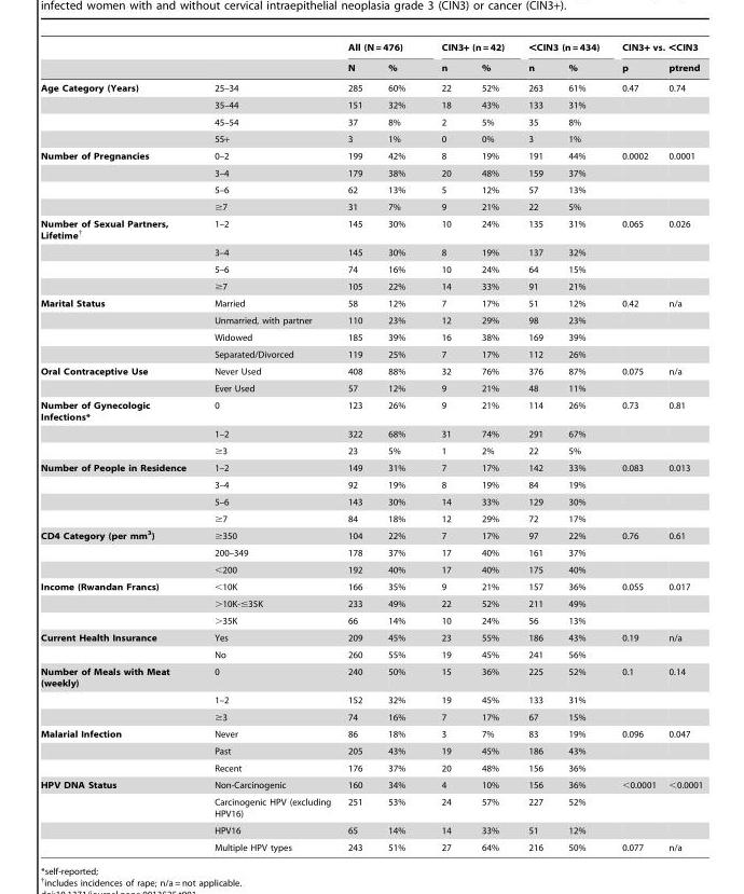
<table><thead><tr><td rowspan="2"></td><td rowspan="2"></td><td colspan="2">All (N = 476)</td><td colspan="2">CIN3+ (n = 42)</td><td colspan="2">&lt;CIN3 (n = 434)</td><td colspan="2">CIN3+ vs. &lt;CIN3</td></tr><tr><td>N</td><td>%</td><td>n</td><td>%</td><td>n</td><td>%</td><td>p</td><td>ptrend</td></tr></thead><tbody><tr><td rowspan="4">Age Category (Years)</td><td>25–34</td><td>285</td><td>60%</td><td>22</td><td>52%</td><td>263</td><td>61%</td><td>0.47</td><td>0.74</td></tr><tr><td>35–44</td><td>151</td><td>32%</td><td>18</td><td>43%</td><td>133</td><td>31%</td><td></td><td></td></tr><tr><td>45–54</td><td>37</td><td>8%</td><td>2</td><td>5%</td><td>35</td><td>8%</td><td></td><td></td></tr><tr><td>55+</td><td>3</td><td>1%</td><td>0</td><td>0%</td><td>3</td><td>1%</td><td></td><td></td></tr><tr><td rowspan="4">Number of Pregnancies</td><td>0–2</td><td>199</td><td>42%</td><td>8</td><td>19%</td><td>191</td><td>44%</td><td>0.0002</td><td>0.0001</td></tr><tr><td>3–4</td><td>179</td><td>38%</td><td>20</td><td>48%</td><td>159</td><td>37%</td><td></td><td></td></tr><tr><td>5–6</td><td>62</td><td>13%</td><td>5</td><td>12%</td><td>57</td><td>13%</td><td></td><td></td></tr><tr><td>≥7</td><td>31</td><td>7%</td><td>9</td><td>21%</td><td>22</td><td>5%</td><td></td><td></td></tr><tr><td rowspan="4">Number of Sexual Partners, Lifetime†</td><td>1–2</td><td>145</td><td>30%</td><td>10</td><td>24%</td><td>135</td><td>31%</td><td>0.065</td><td>0.026</td></tr><tr><td>3–4</td><td>145</td><td>30%</td><td>8</td><td>19%</td><td>137</td><td>32%</td><td></td><td></td></tr><tr><td>5–6</td><td>74</td><td>16%</td><td>10</td><td>24%</td><td>64</td><td>15%</td><td></td><td></td></tr><tr><td>≥7</td><td>105</td><td>22%</td><td>14</td><td>33%</td><td>91</td><td>21%</td><td></td><td></td></tr><tr><td rowspan="4">Marital Status</td><td>Married</td><td>58</td><td>12%</td><td>7</td><td>17%</td><td>51</td><td>12%</td><td>0.42</td><td>n/a</td></tr><tr><td>Unmarried, with partner</td><td>110</td><td>23%</td><td>12</td><td>29%</td><td>98</td><td>23%</td><td></td><td></td></tr><tr><td>Widowed</td><td>185</td><td>39%</td><td>16</td><td>38%</td><td>169</td><td>39%</td><td></td><td></td></tr><tr><td>Separated/Divorced</td><td>119</td><td>25%</td><td>7</td><td>17%</td><td>112</td><td>26%</td><td></td><td></td></tr><tr><td rowspan="2">Oral Contraceptive Use</td><td>Never Used</td><td>408</td><td>88%</td><td>32</td><td>76%</td><td>376</td><td>87%</td><td>0.075</td><td>n/a</td></tr><tr><td>Ever Used</td><td>57</td><td>12%</td><td>9</td><td>21%</td><td>48</td><td>11%</td><td></td><td></td></tr><tr><td rowspan="3">Number of Gynecologic Infections*</td><td>0</td><td>123</td><td>26%</td><td>9</td><td>21%</td><td>114</td><td>26%</td><td>0.73</td><td>0.81</td></tr><tr><td>1–2</td><td>322</td><td>68%</td><td>31</td><td>74%</td><td>291</td><td>67%</td><td></td><td></td></tr><tr><td>≥3</td><td>23</td><td>5%</td><td>1</td><td>2%</td><td>22</td><td>5%</td><td></td><td></td></tr><tr><td rowspan="4">Number of People in Residence</td><td>1–2</td><td>149</td><td>31%</td><td>7</td><td>17%</td><td>142</td><td>33%</td><td>0.083</td><td>0.013</td></tr><tr><td>3–4</td><td>92</td><td>19%</td><td>8</td><td>19%</td><td>84</td><td>19%</td><td></td><td></td></tr><tr><td>5–6</td><td>143</td><td>30%</td><td>14</td><td>33%</td><td>129</td><td>30%</td><td></td><td></td></tr><tr><td>≥7</td><td>84</td><td>18%</td><td>12</td><td>29%</td><td>72</td><td>17%</td><td></td><td></td></tr><tr><td rowspan="3">CD4 Category (per mm<sup>3</sup>)</td><td>≥350</td><td>104</td><td>22%</td><td>7</td><td>17%</td><td>97</td><td>22%</td><td>0.76</td><td>0.61</td></tr><tr><td>200–349</td><td>178</td><td>37%</td><td>17</td><td>40%</td><td>161</td><td>37%</td><td></td><td></td></tr><tr><td>&lt;200</td><td>192</td><td>40%</td><td>17</td><td>40%</td><td>175</td><td>40%</td><td></td><td></td></tr><tr><td rowspan="3">Income (Rwandan Francs)</td><td>&lt;10K</td><td>166</td><td>35%</td><td>9</td><td>21%</td><td>157</td><td>36%</td><td>0.055</td><td>0.017</td></tr><tr><td>&gt;10K-≤35K</td><td>233</td><td>49%</td><td>22</td><td>52%</td><td>211</td><td>49%</td><td></td><td></td></tr><tr><td>&gt;35K</td><td>66</td><td>14%</td><td>10</td><td>24%</td><td>56</td><td>13%</td><td></td><td></td></tr><tr><td rowspan="2">Current Health Insurance</td><td>Yes</td><td>209</td><td>45%</td><td>23</td><td>55%</td><td>186</td><td>43%</td><td>0.19</td><td>n/a</td></tr><tr><td>No</td><td>260</td><td>55%</td><td>19</td><td>45%</td><td>241</td><td>56%</td><td></td><td></td></tr><tr><td rowspan="3">Number of Meals with Meat (weekly)</td><td>0</td><td>240</td><td>50%</td><td>15</td><td>36%</td><td>225</td><td>52%</td><td>0.1</td><td>0.14</td></tr><tr><td>1–2</td><td>152</td><td>32%</td><td>19</td><td>45%</td><td>133</td><td>31%</td><td></td><td></td></tr><tr><td>≥3</td><td>74</td><td>16%</td><td>7</td><td>17%</td><td>67</td><td>15%</td><td></td><td></td></tr><tr><td rowspan="3">Malarial Infection</td><td>Never</td><td>86</td><td>18%</td><td>3</td><td>7%</td><td>83</td><td>19%</td><td>0.096</td><td>0.047</td></tr><tr><td>Past</td><td>205</td><td>43%</td><td>19</td><td>45%</td><td>186</td><td>43%</td><td></td><td></td></tr><tr><td>Recent</td><td>176</td><td>37%</td><td>20</td><td>48%</td><td>156</td><td>36%</td><td></td><td></td></tr><tr><td rowspan="4">HPV DNA Status</td><td>Non-Carcinogenic</td><td>160</td><td>34%</td><td>4</td><td>10%</td><td>156</td><td>36%</td><td>&lt;0.0001</td><td>&lt;0.0001</td></tr><tr><td>Carcinogenic HPV (excluding HPV16)</td><td>251</td><td>53%</td><td>24</td><td>57%</td><td>227</td><td>52%</td><td></td><td></td></tr><tr><td>HPV16</td><td>65</td><td>14%</td><td>14</td><td>33%</td><td>51</td><td>12%</td><td></td><td></td></tr><tr><td>Multiple HPV types</td><td>243</td><td>51%</td><td>27</td><td>64%</td><td>216</td><td>50%</td><td>0.077</td><td>n/a</td></tr></tbody></table>